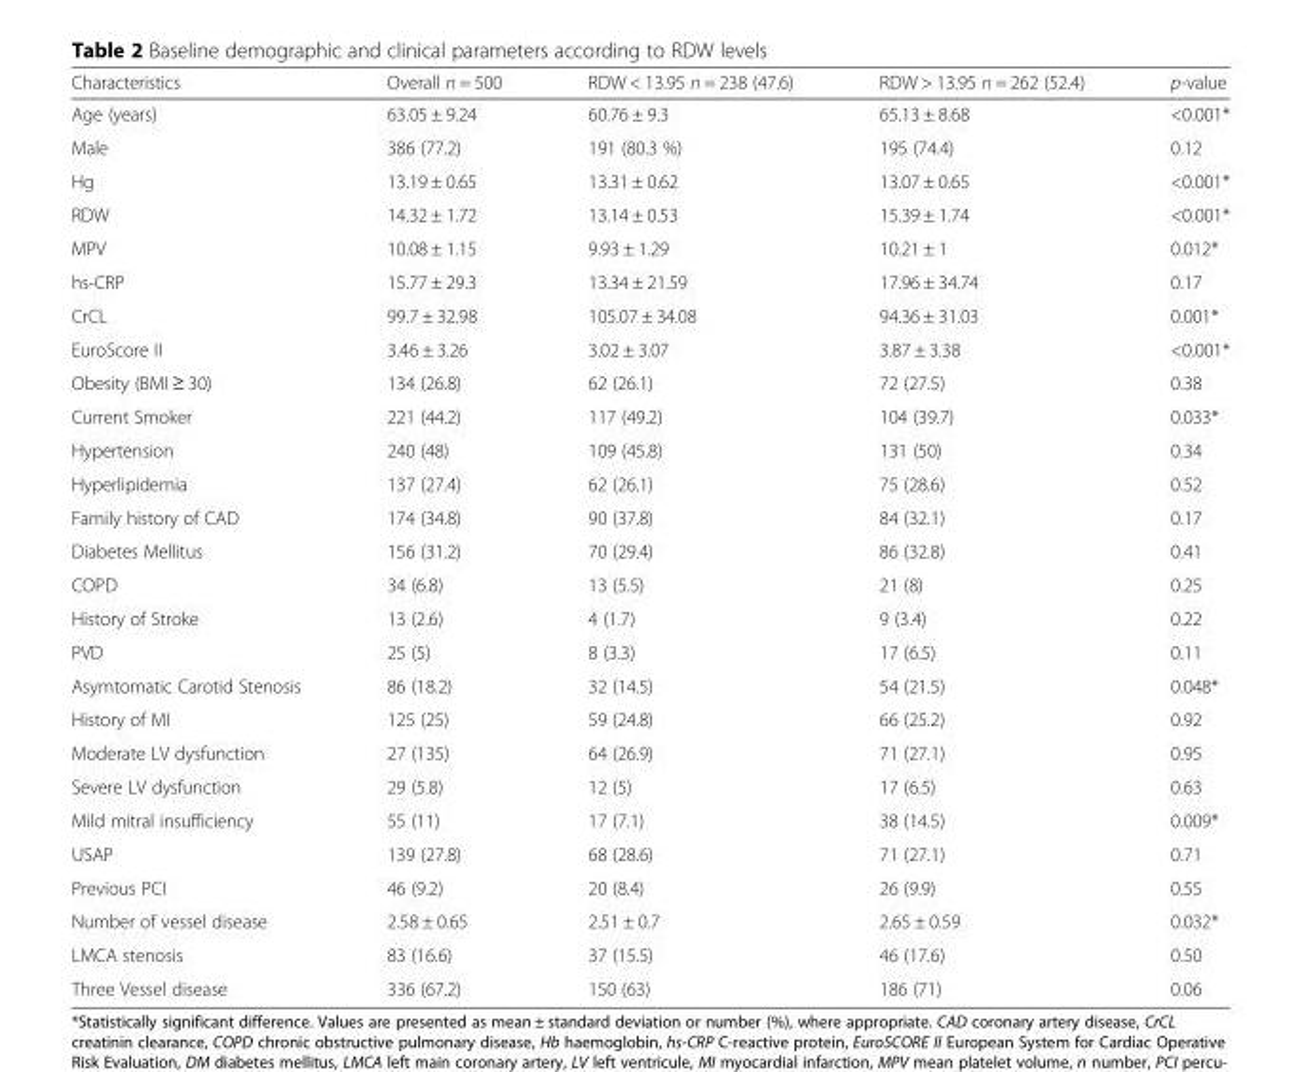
<table><thead><tr><td>Characteristics</td><td>Overall n = 500</td><td>RDW &lt; 13.95 n = 238 (47.6)</td><td>RDW &gt; 13.95 n = 262 (52.4)</td><td>p-value</td></tr></thead><tbody><tr><td>Age (years)</td><td>63.05 ± 9.24</td><td>60.76 ± 9.3</td><td>65.13 ± 8.68</td><td>&lt;0.001*</td></tr><tr><td>Male</td><td>386 (77.2)</td><td>191 (80.3 %)</td><td>195 (74.4)</td><td>0.12</td></tr><tr><td>Hg</td><td>13.19 ± 0.65</td><td>13.31 ± 0.62</td><td>13.07 ± 0.65</td><td>&lt;0.001*</td></tr><tr><td>RDW</td><td>14.32 ± 1.72</td><td>13.14 ± 0.53</td><td>15.39 ± 1.74</td><td>&lt;0.001*</td></tr><tr><td>MPV</td><td>10.08 ± 1.15</td><td>9.93 ± 1.29</td><td>10.21 ± 1</td><td>0.012*</td></tr><tr><td>hs-CRP</td><td>15.77 ± 29.3</td><td>13.34 ± 21.59</td><td>17.96 ± 34.74</td><td>0.17</td></tr><tr><td>CrCL</td><td>99.7 ± 32.98</td><td>105.07 ± 34.08</td><td>94.36 ± 31.03</td><td>0.001*</td></tr><tr><td>EuroScore II</td><td>3.46 ± 3.26</td><td>3.02 ± 3.07</td><td>3.87 ± 3.38</td><td>&lt;0.001*</td></tr><tr><td>Obesity (BMI ≥ 30)</td><td>134 (26.8)</td><td>62 (26.1)</td><td>72 (27.5)</td><td>0.38</td></tr><tr><td>Current Smoker</td><td>221 (44.2)</td><td>117 (49.2)</td><td>104 (39.7)</td><td>0.033*</td></tr><tr><td>Hypertension</td><td>240 (48)</td><td>109 (45.8)</td><td>131 (50)</td><td>0.34</td></tr><tr><td>Hyperlipidemia</td><td>137 (27.4)</td><td>62 (26.1)</td><td>75 (28.6)</td><td>0.52</td></tr><tr><td>Family history of CAD</td><td>174 (34.8)</td><td>90 (37.8)</td><td>84 (32.1)</td><td>0.17</td></tr><tr><td>Diabetes Mellitus</td><td>156 (31.2)</td><td>70 (29.4)</td><td>86 (32.8)</td><td>0.41</td></tr><tr><td>COPD</td><td>34 (6.8)</td><td>13 (5.5)</td><td>21 (8)</td><td>0.25</td></tr><tr><td>History of Stroke</td><td>13 (2.6)</td><td>4 (1.7)</td><td>9 (3.4)</td><td>0.22</td></tr><tr><td>PVD</td><td>25 (5)</td><td>8 (3.3)</td><td>17 (6.5)</td><td>0.11</td></tr><tr><td>Asymtomatic Carotid Stenosis</td><td>86 (18.2)</td><td>32 (14.5)</td><td>54 (21.5)</td><td>0.048*</td></tr><tr><td>History of MI</td><td>125 (25)</td><td>59 (24.8)</td><td>66 (25.2)</td><td>0.92</td></tr><tr><td>Moderate LV dysfunction</td><td>27 (135)</td><td>64 (26.9)</td><td>71 (27.1)</td><td>0.95</td></tr><tr><td>Severe LV dysfunction</td><td>29 (5.8)</td><td>12 (5)</td><td>17 (6.5)</td><td>0.63</td></tr><tr><td>Mild mitral insufficiency</td><td>55 (11)</td><td>17 (7.1)</td><td>38 (14.5)</td><td>0.009*</td></tr><tr><td>USAP</td><td>139 (27.8)</td><td>68 (28.6)</td><td>71 (27.1)</td><td>0.71</td></tr><tr><td>Previous PCI</td><td>46 (9.2)</td><td>20 (8.4)</td><td>26 (9.9)</td><td>0.55</td></tr><tr><td>Number of vessel disease</td><td>2.58 ± 0.65</td><td>2.51 ± 0.7</td><td>2.65 ± 0.59</td><td>0.032*</td></tr><tr><td>LMCA stenosis</td><td>83 (16.6)</td><td>37 (15.5)</td><td>46 (17.6)</td><td>0.50</td></tr><tr><td>Three Vessel disease</td><td>336 (67.2)</td><td>150 (63)</td><td>186 (71)</td><td>0.06</td></tr></tbody></table>